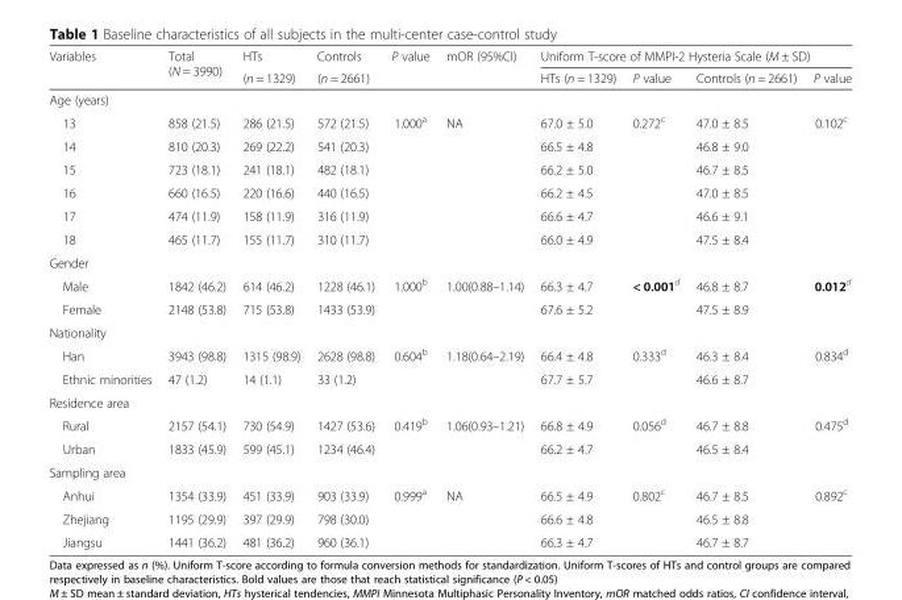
<table><thead><tr><td rowspan="2">Variables</td><td rowspan="2">Total (N = 3990)</td><td rowspan="2">HTs (n = 1329)</td><td rowspan="2">Controls (n = 2661)</td><td rowspan="2">P value</td><td rowspan="2">mOR (95%CI)</td><td colspan="4">Uniform T-score of MMPI-2 Hysteria Scale (M ± SD)</td></tr><tr><td>HTs (n = 1329)</td><td>P value</td><td>Controls (n = 2661)</td><td>P value</td></tr></thead><tbody><tr><td colspan="10">Age (years)</td></tr><tr><td>13</td><td>858 (21.5)</td><td>286 (21.5)</td><td>572 (21.5)</td><td>1.000<sup>a</sup></td><td>NA</td><td>67.0 ± 5.0</td><td>0.272<sup>c</sup></td><td>47.0 ± 8.5</td><td>0.102<sup>c</sup></td></tr><tr><td>14</td><td>810 (20.3)</td><td>269 (22.2)</td><td>541 (20.3)</td><td></td><td></td><td>66.5 ± 4.8</td><td></td><td>46.8 ± 9.0</td><td></td></tr><tr><td>15</td><td>723 (18.1)</td><td>241 (18.1)</td><td>482 (18.1)</td><td></td><td></td><td>66.2 ± 5.0</td><td></td><td>46.7 ± 8.5</td><td></td></tr><tr><td>16</td><td>660 (16.5)</td><td>220 (16.6)</td><td>440 (16.5)</td><td></td><td></td><td>66.2 ± 4.5</td><td></td><td>47.0 ± 8.5</td><td></td></tr><tr><td>17</td><td>474 (11.9)</td><td>158 (11.9)</td><td>316 (11.9)</td><td></td><td></td><td>66.6 ± 4.7</td><td></td><td>46.6 ± 9.1</td><td></td></tr><tr><td>18</td><td>465 (11.7)</td><td>155 (11.7)</td><td>310 (11.7)</td><td></td><td></td><td>66.0 ± 4.9</td><td></td><td>47.5 ± 8.4</td><td></td></tr><tr><td colspan="10">Gender</td></tr><tr><td>Male</td><td>1842 (46.2)</td><td>614 (46.2)</td><td>1228 (46.1)</td><td>1.000<sup>b</sup></td><td>1.00(0.88–1.14)</td><td>66.3 ± 4.7</td><td>&lt; 0.001<sup>d</sup></td><td>46.8 ± 8.7</td><td>0.012<sup>d</sup></td></tr><tr><td>Female</td><td>2148 (53.8)</td><td>715 (53.8)</td><td>1433 (53.9)</td><td></td><td></td><td>67.6 ± 5.2</td><td></td><td>47.5 ± 8.9</td><td></td></tr><tr><td colspan="10">Nationality</td></tr><tr><td>Han</td><td>3943 (98.8)</td><td>1315 (98.9)</td><td>2628 (98.8)</td><td>0.604<sup>b</sup></td><td>1.18(0.64–2.19)</td><td>66.4 ± 4.8</td><td>0.333<sup>d</sup></td><td>46.3 ± 8.4</td><td>0.834<sup>d</sup></td></tr><tr><td>Ethnic minorities</td><td>47 (1.2)</td><td>14 (1.1)</td><td>33 (1.2)</td><td></td><td></td><td>67.7 ± 5.7</td><td></td><td>46.6 ± 8.7</td><td></td></tr><tr><td colspan="10">Residence area</td></tr><tr><td>Rural</td><td>2157 (54.1)</td><td>730 (54.9)</td><td>1427 (53.6)</td><td>0.419<sup>b</sup></td><td>1.06(0.93–1.21)</td><td>66.8 ± 4.9</td><td>0.056<sup>d</sup></td><td>46.7 ± 8.8</td><td>0.475<sup>d</sup></td></tr><tr><td>Urban</td><td>1833 (45.9)</td><td>599 (45.1)</td><td>1234 (46.4)</td><td></td><td></td><td>66.2 ± 4.7</td><td></td><td>46.5 ± 8.4</td><td></td></tr><tr><td colspan="10">Sampling area</td></tr><tr><td>Anhui</td><td>1354 (33.9)</td><td>451 (33.9)</td><td>903 (33.9)</td><td>0.999<sup>a</sup></td><td>NA</td><td>66.5 ± 4.9</td><td>0.802<sup>c</sup></td><td>46.7 ± 8.5</td><td>0.892<sup>c</sup></td></tr><tr><td>Zhejiang</td><td>1195 (29.9)</td><td>397 (29.9)</td><td>798 (30.0)</td><td></td><td></td><td>66.6 ± 4.8</td><td></td><td>46.5 ± 8.8</td><td></td></tr><tr><td>Jiangsu</td><td>1441 (36.2)</td><td>481 (36.2)</td><td>960 (36.1)</td><td></td><td></td><td>66.3 ± 4.7</td><td></td><td>46.7 ± 8.7</td><td></td></tr></tbody></table>